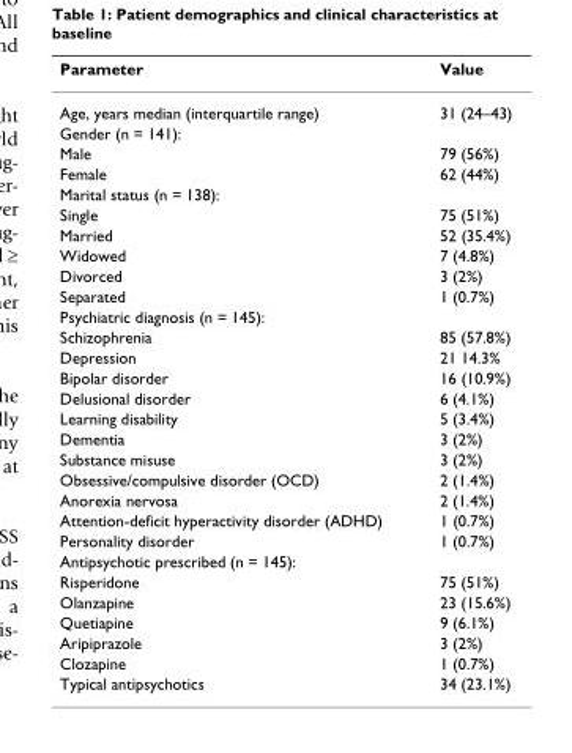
<table><thead><tr><td>Parameter</td><td>Value</td></tr></thead><tbody><tr><td>Age, years median (interquartile range)</td><td>31 (24–43)</td></tr><tr><td colspan="2">Gender (n = 141):</td></tr><tr><td>Male</td><td>79 (56%)</td></tr><tr><td>Female</td><td>62 (44%)</td></tr><tr><td colspan="2">Marital status (n = 138):</td></tr><tr><td>Single</td><td>75 (51%)</td></tr><tr><td>Married</td><td>52 (35.4%)</td></tr><tr><td>Widowed</td><td>7 (4.8%)</td></tr><tr><td>Divorced</td><td>3 (2%)</td></tr><tr><td>Separated</td><td>1 (0.7%)</td></tr><tr><td colspan="2">Psychiatric diagnosis (n = 145):</td></tr><tr><td>Schizophrenia</td><td>85 (57.8%)</td></tr><tr><td>Depression</td><td>21 14.3%</td></tr><tr><td>Bipolar disorder</td><td>16 (10.9%)</td></tr><tr><td>Delusional disorder</td><td>6 (4.1%)</td></tr><tr><td>Learning disability</td><td>5 (3.4%)</td></tr><tr><td>Dementia</td><td>3 (2%)</td></tr><tr><td>Substance misuse</td><td>3 (2%)</td></tr><tr><td>Obsessive/compulsive disorder (OCD)</td><td>2 (1.4%)</td></tr><tr><td>Anorexia nervosa</td><td>2 (1.4%)</td></tr><tr><td>Attention-deficit hyperactivity disorder (ADHD)</td><td>1 (0.7%)</td></tr><tr><td>Personality disorder</td><td>1 (0.7%)</td></tr><tr><td colspan="2">Antipsychotic prescribed (n = 145):</td></tr><tr><td>Risperidone</td><td>75 (51%)</td></tr><tr><td>Olanzapine</td><td>23 (15.6%)</td></tr><tr><td>Quetiapine</td><td>9 (6.1%)</td></tr><tr><td>Aripiprazole</td><td>3 (2%)</td></tr><tr><td>Clozapine</td><td>1 (0.7%)</td></tr><tr><td>Typical antipsychotics</td><td>34 (23.1%)</td></tr></tbody></table>